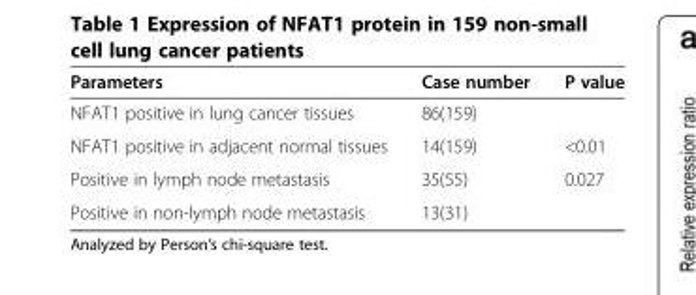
<table><thead><tr><td>Parameters</td><td>Case number</td><td>P value</td></tr></thead><tbody><tr><td>NFAT1 positive in lung cancer tissues</td><td>86(159)</td><td></td></tr><tr><td>NFAT1 positive in adjacent normal tissues</td><td>14(159)</td><td>&lt;0.01</td></tr><tr><td>Positive in lymph node metastasis</td><td>35(55)</td><td rowspan="2">0.027</td></tr><tr><td>Positive in non-lymph node metastasis</td><td>13(31)</td></tr></tbody></table>